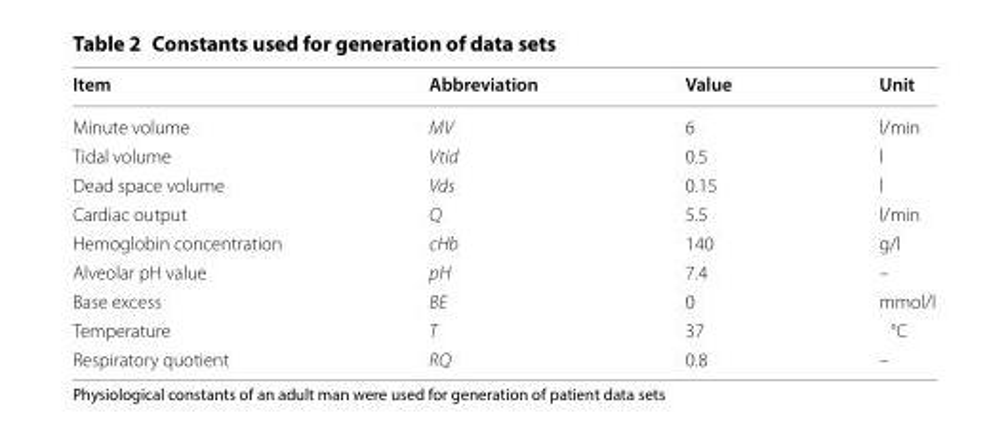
<table><thead><tr><td>Item</td><td>Abbreviation</td><td>Value</td><td>Unit</td></tr></thead><tbody><tr><td>Minute volume</td><td>MV</td><td>6</td><td>l/min</td></tr><tr><td>Tidal volume</td><td>Vtid</td><td>0.5</td><td>l</td></tr><tr><td>Dead space volume</td><td>Vds</td><td>0.15</td><td>l</td></tr><tr><td>Cardiac output</td><td>Q</td><td>5.5</td><td>l/min</td></tr><tr><td>Hemoglobin concentration</td><td>cHb</td><td>140</td><td>g/l</td></tr><tr><td>Alveolar pH value</td><td>pH</td><td>7.4</td><td>–</td></tr><tr><td>Base excess</td><td>BE</td><td>0</td><td>mmol/l</td></tr><tr><td>Temperature</td><td>T</td><td>37</td><td>°C</td></tr><tr><td>Respiratory quotient</td><td>RQ</td><td>0.8</td><td>–</td></tr></tbody></table>